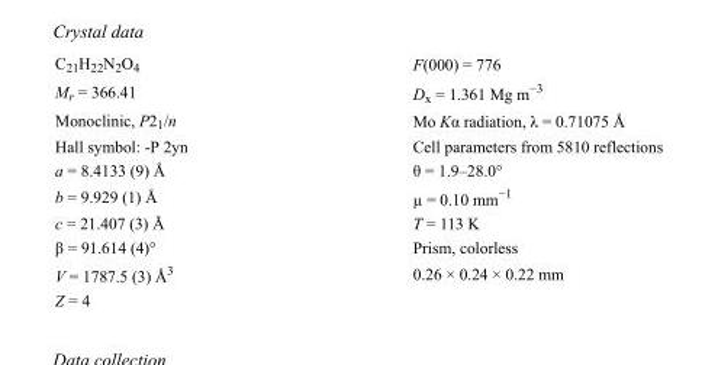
<table><tbody><tr><td>C<sub>21</sub>H<sub>22</sub>N<sub>2</sub>O<sub>4</sub></td><td>F(000) = 776</td></tr><tr><td>M<sub>r</sub> = 366.41</td><td>D<sub>x</sub> = 1.361 Mg m<sup>−3</sup></td></tr><tr><td>Monoclinic, P2<sub>1</sub>/n</td><td>Mo Kα radiation, λ = 0.71075 Å</td></tr><tr><td>Hall symbol: -P 2yn</td><td>Cell parameters from 5810 reflections</td></tr><tr><td>a = 8.4133 (9) Å</td><td>θ = 1.9–28.0°</td></tr><tr><td>b = 9.929 (1) Å</td><td>µ = 0.10 mm<sup>−1</sup></td></tr><tr><td>c = 21.407 (3) Å</td><td>T = 113 K</td></tr><tr><td>β = 91.614 (4)°</td><td>Prism, colorless</td></tr><tr><td>V = 1787.5 (3) Å<sup>3</sup></td><td>0.26 × 0.24 × 0.22 mm</td></tr><tr><td>Z = 4</td><td></td></tr></tbody></table>